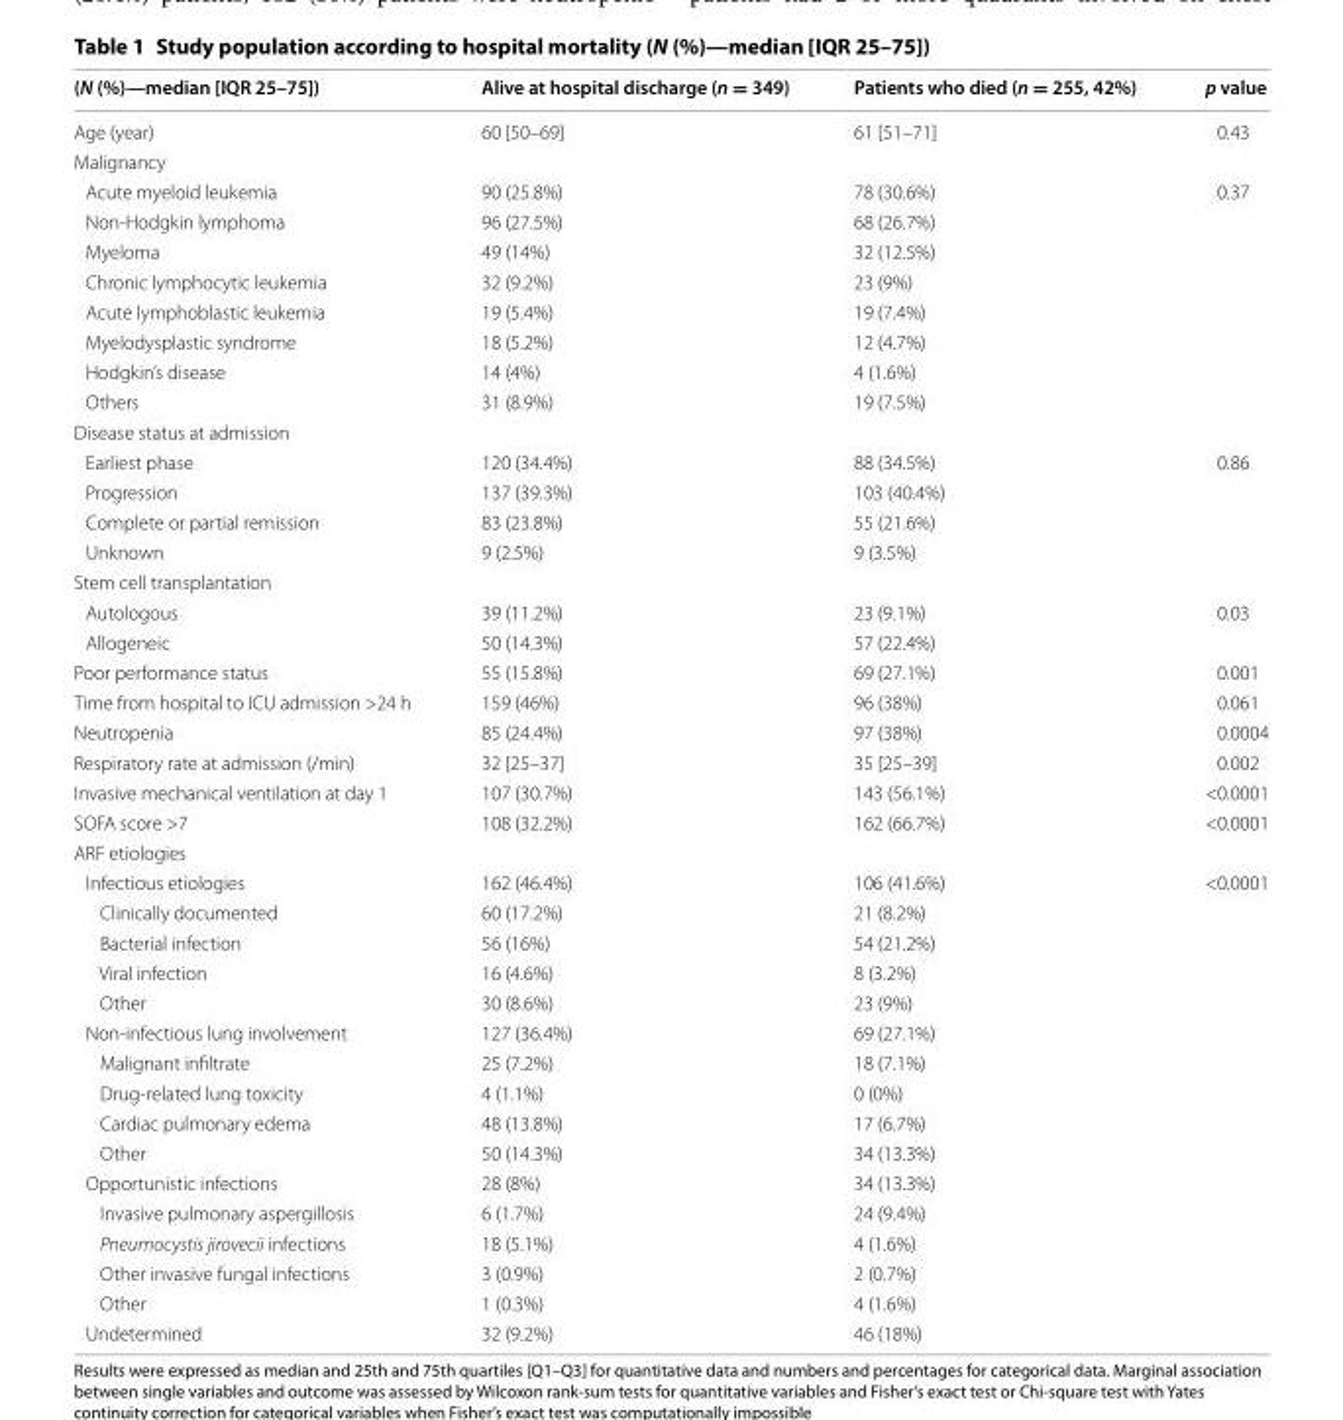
<table><thead><tr><td>(N (%)—median [IQR 25–75])</td><td>Alive at hospital discharge (n = 349)</td><td>Patients who died (n = 255, 42%)</td><td>p value</td></tr></thead><tbody><tr><td>Age (year)</td><td>60 [50–69]</td><td>61 [51–71]</td><td>0.43</td></tr><tr><td colspan="4">Malignancy</td></tr><tr><td>Acute myeloid leukemia</td><td>90 (25.8%)</td><td>78 (30.6%)</td><td>0.37</td></tr><tr><td>Non‑Hodgkin lymphoma</td><td>96 (27.5%)</td><td>68 (26.7%)</td><td></td></tr><tr><td>Myeloma</td><td>49 (14%)</td><td>32 (12.5%)</td><td></td></tr><tr><td>Chronic lymphocytic leukemia</td><td>32 (9.2%)</td><td>23 (9%)</td><td></td></tr><tr><td>Acute lymphoblastic leukemia</td><td>19 (5.4%)</td><td>19 (7.4%)</td><td></td></tr><tr><td>Myelodysplastic syndrome</td><td>18 (5.2%)</td><td>12 (4.7%)</td><td></td></tr><tr><td>Hodgkin’s disease</td><td>14 (4%)</td><td>4 (1.6%)</td><td></td></tr><tr><td>Others</td><td>31 (8.9%)</td><td>19 (7.5%)</td><td></td></tr><tr><td colspan="4">Disease status at admission</td></tr><tr><td>Earliest phase</td><td>120 (34.4%)</td><td>88 (34.5%)</td><td>0.86</td></tr><tr><td>Progression</td><td>137 (39.3%)</td><td>103 (40.4%)</td><td></td></tr><tr><td>Complete or partial remission</td><td>83 (23.8%)</td><td>55 (21.6%)</td><td></td></tr><tr><td>Unknown</td><td>9 (2.5%)</td><td>9 (3.5%)</td><td></td></tr><tr><td colspan="4">Stem cell transplantation</td></tr><tr><td>Autologous</td><td>39 (11.2%)</td><td>23 (9.1%)</td><td>0.03</td></tr><tr><td>Allogeneic</td><td>50 (14.3%)</td><td>57 (22.4%)</td><td></td></tr><tr><td>Poor performance status</td><td>55 (15.8%)</td><td>69 (27.1%)</td><td>0.001</td></tr><tr><td>Time from hospital to ICU admission &gt;24 h</td><td>159 (46%)</td><td>96 (38%)</td><td>0.061</td></tr><tr><td>Neutropenia</td><td>85 (24.4%)</td><td>97 (38%)</td><td>0.0004</td></tr><tr><td>Respiratory rate at admission (/min)</td><td>32 [25–37]</td><td>35 [25–39]</td><td>0.002</td></tr><tr><td>Invasive mechanical ventilation at day 1</td><td>107 (30.7%)</td><td>143 (56.1%)</td><td>&lt;0.0001</td></tr><tr><td>SOFA score &gt;7</td><td>108 (32.2%)</td><td>162 (66.7%)</td><td>&lt;0.0001</td></tr><tr><td colspan="4">ARF etiologies</td></tr><tr><td>Infectious etiologies</td><td>162 (46.4%)</td><td>106 (41.6%)</td><td>&lt;0.0001</td></tr><tr><td>Clinically documented</td><td>60 (17.2%)</td><td>21 (8.2%)</td><td></td></tr><tr><td>Bacterial infection</td><td>56 (16%)</td><td>54 (21.2%)</td><td></td></tr><tr><td>Viral infection</td><td>16 (4.6%)</td><td>8 (3.2%)</td><td></td></tr><tr><td>Other</td><td>30 (8.6%)</td><td>23 (9%)</td><td></td></tr><tr><td>Non‑infectious lung involvement</td><td>127 (36.4%)</td><td>69 (27.1%)</td><td></td></tr><tr><td>Malignant infiltrate</td><td>25 (7.2%)</td><td>18 (7.1%)</td><td></td></tr><tr><td>Drug‑related lung toxicity</td><td>4 (1.1%)</td><td>0 (0%)</td><td></td></tr><tr><td>Cardiac pulmonary edema</td><td>48 (13.8%)</td><td>17 (6.7%)</td><td></td></tr><tr><td>Other</td><td>50 (14.3%)</td><td>34 (13.3%)</td><td></td></tr><tr><td>Opportunistic infections</td><td>28 (8%)</td><td>34 (13.3%)</td><td></td></tr><tr><td>Invasive pulmonary aspergillosis</td><td>6 (1.7%)</td><td>24 (9.4%)</td><td></td></tr><tr><td>Pneumocystis jirovecii infections</td><td>18 (5.1%)</td><td>4 (1.6%)</td><td></td></tr><tr><td>Other invasive fungal infections</td><td>3 (0.9%)</td><td>2 (0.7%)</td><td></td></tr><tr><td>Other</td><td>1 (0.3%)</td><td>4 (1.6%)</td><td></td></tr><tr><td>Undetermined</td><td>32 (9.2%)</td><td>46 (18%)</td><td></td></tr></tbody></table>